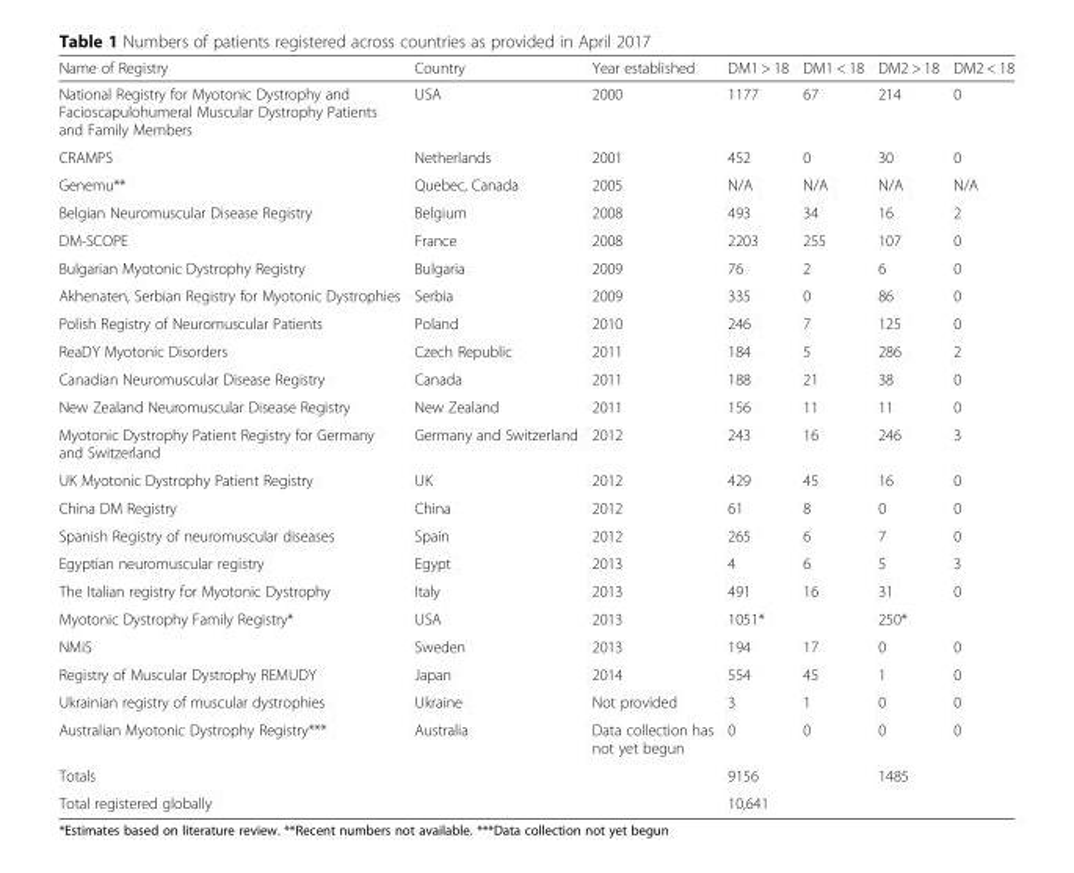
<table><thead><tr><td>Name of Registry</td><td>Country</td><td>Year established</td><td>DM1 &gt; 18</td><td>DM1 &lt; 18</td><td>DM2 &gt; 18</td><td>DM2 &lt; 18</td></tr></thead><tbody><tr><td>National Registry for Myotonic Dystrophy and Facioscapulohumeral Muscular Dystrophy Patients and Family Members</td><td>USA</td><td>2000</td><td>1177</td><td>67</td><td>214</td><td>0</td></tr><tr><td>CRAMPS</td><td>Netherlands</td><td>2001</td><td>452</td><td>0</td><td>30</td><td>0</td></tr><tr><td>Genemu**</td><td>Quebec, Canada</td><td>2005</td><td>N/A</td><td>N/A</td><td>N/A</td><td>N/A</td></tr><tr><td>Belgian Neuromuscular Disease Registry</td><td>Belgium</td><td>2008</td><td>493</td><td>34</td><td>16</td><td>2</td></tr><tr><td>DM-SCOPE</td><td>France</td><td>2008</td><td>2203</td><td>255</td><td>107</td><td>0</td></tr><tr><td>Bulgarian Myotonic Dystrophy Registry</td><td>Bulgaria</td><td>2009</td><td>76</td><td>2</td><td>6</td><td>0</td></tr><tr><td>Akhenaten, Serbian Registry for Myotonic Dystrophies</td><td>Serbia</td><td>2009</td><td>335</td><td>0</td><td>86</td><td>0</td></tr><tr><td>Polish Registry of Neuromuscular Patients</td><td>Poland</td><td>2010</td><td>246</td><td>7</td><td>125</td><td>0</td></tr><tr><td>ReaDY Myotonic Disorders</td><td>Czech Republic</td><td>2011</td><td>184</td><td>5</td><td>286</td><td>2</td></tr><tr><td>Canadian Neuromuscular Disease Registry</td><td>Canada</td><td>2011</td><td>188</td><td>21</td><td>38</td><td>0</td></tr><tr><td>New Zealand Neuromuscular Disease Registry</td><td>New Zealand</td><td>2011</td><td>156</td><td>11</td><td>11</td><td>0</td></tr><tr><td>Myotonic Dystrophy Patient Registry for Germany and Switzerland</td><td>Germany and Switzerland</td><td>2012</td><td>243</td><td>16</td><td>246</td><td>3</td></tr><tr><td>UK Myotonic Dystrophy Patient Registry</td><td>UK</td><td>2012</td><td>429</td><td>45</td><td>16</td><td>0</td></tr><tr><td>China DM Registry</td><td>China</td><td>2012</td><td>61</td><td>8</td><td>0</td><td>0</td></tr><tr><td>Spanish Registry of neuromuscular diseases</td><td>Spain</td><td>2012</td><td>265</td><td>6</td><td>7</td><td>0</td></tr><tr><td>Egyptian neuromuscular registry</td><td>Egypt</td><td>2013</td><td>4</td><td>6</td><td>5</td><td>3</td></tr><tr><td>The Italian registry for Myotonic Dystrophy</td><td>Italy</td><td>2013</td><td>491</td><td>16</td><td>31</td><td>0</td></tr><tr><td>Myotonic Dystrophy Family Registry*</td><td>USA</td><td>2013</td><td colspan="2">1051*</td><td colspan="2">250*</td></tr><tr><td>NMiS</td><td>Sweden</td><td>2013</td><td>194</td><td>17</td><td>0</td><td>0</td></tr><tr><td>Registry of Muscular Dystrophy REMUDY</td><td>Japan</td><td>2014</td><td>554</td><td>45</td><td>1</td><td>0</td></tr><tr><td>Ukrainian registry of muscular dystrophies</td><td>Ukraine</td><td>Not provided</td><td>3</td><td>1</td><td>0</td><td>0</td></tr><tr><td>Australian Myotonic Dystrophy Registry***</td><td>Australia</td><td>Data collection has not yet begun</td><td>0</td><td>0</td><td>0</td><td>0</td></tr><tr><td>Totals</td><td></td><td></td><td colspan="2">9156</td><td colspan="2">1485</td></tr><tr><td>Total registered globally</td><td></td><td></td><td>10,641</td><td></td><td></td><td></td></tr></tbody></table>